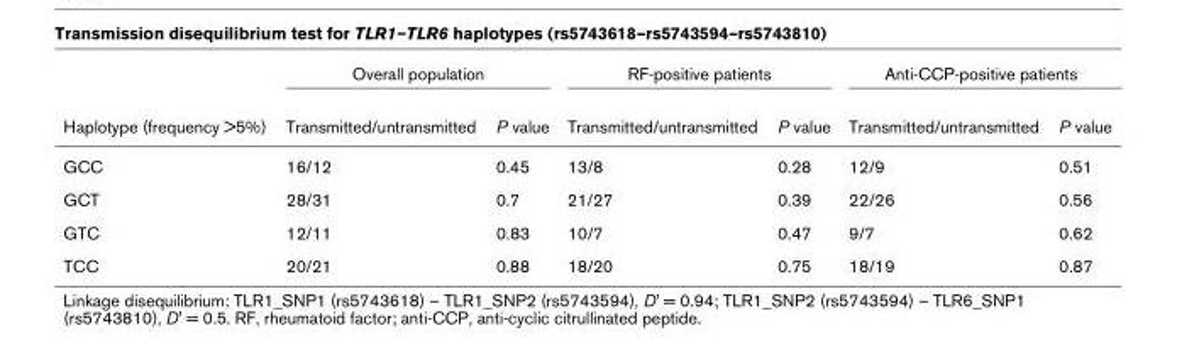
<table><thead><tr><td rowspan="2">Haplotype (frequency &gt;5%)</td><td colspan="2">Overall population</td><td colspan="2">RF-positive patients</td><td colspan="2">Anti-CCP-positive patients</td></tr><tr><td>Transmitted/untransmitted</td><td>P value</td><td>Transmitted/untransmitted</td><td>P value</td><td>Transmitted/untransmitted</td><td>P value</td></tr></thead><tbody><tr><td>GCC</td><td>16/12</td><td>0.45</td><td>13/8</td><td>0.28</td><td>12/9</td><td>0.51</td></tr><tr><td>GCT</td><td>28/31</td><td>0.7</td><td>21/27</td><td>0.39</td><td>22/26</td><td>0.56</td></tr><tr><td>GTC</td><td>12/11</td><td>0.83</td><td>10/7</td><td>0.47</td><td>9/7</td><td>0.62</td></tr><tr><td>TCC</td><td>20/21</td><td>0.88</td><td>18/20</td><td>0.75</td><td>18/19</td><td>0.87</td></tr></tbody></table>